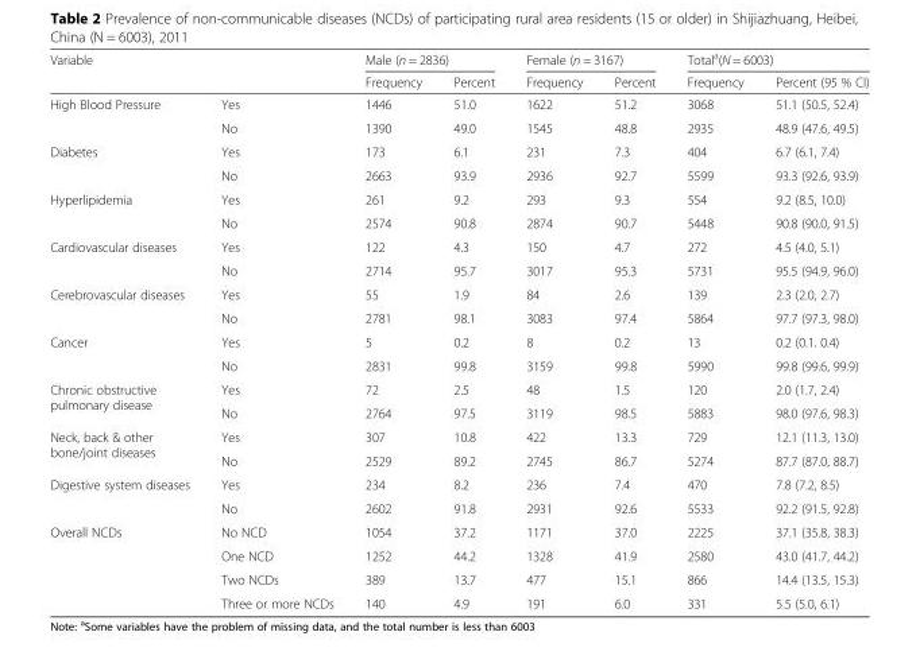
<table><tbody><tr><td rowspan="2" colspan="2">Variable</td><td colspan="2">Male (n = 2836)</td><td colspan="2">Female (n = 3167)</td><td colspan="2">Total<sup>a</sup>(N = 6003)</td></tr><tr><td>Frequency</td><td>Percent</td><td>Frequency</td><td>Percent</td><td>Frequency</td><td>Percent (95 % CI)</td></tr><tr><td rowspan="2">High Blood Pressure</td><td>Yes</td><td>1446</td><td>51.0</td><td>1622</td><td>51.2</td><td>3068</td><td>51.1 (50.5, 52.4)</td></tr><tr><td>No</td><td>1390</td><td>49.0</td><td>1545</td><td>48.8</td><td>2935</td><td>48.9 (47.6, 49.5)</td></tr><tr><td rowspan="2">Diabetes</td><td>Yes</td><td>173</td><td>6.1</td><td>231</td><td>7.3</td><td>404</td><td>6.7 (6.1, 7.4)</td></tr><tr><td>No</td><td>2663</td><td>93.9</td><td>2936</td><td>92.7</td><td>5599</td><td>93.3 (92.6, 93.9)</td></tr><tr><td rowspan="2">Hyperlipidemia</td><td>Yes</td><td>261</td><td>9.2</td><td>293</td><td>9.3</td><td>554</td><td>9.2 (8.5, 10.0)</td></tr><tr><td>No</td><td>2574</td><td>90.8</td><td>2874</td><td>90.7</td><td>5448</td><td>90.8 (90.0, 91.5)</td></tr><tr><td rowspan="2">Cardiovascular diseases</td><td>Yes</td><td>122</td><td>4.3</td><td>150</td><td>4.7</td><td>272</td><td>4.5 (4.0, 5.1)</td></tr><tr><td>No</td><td>2714</td><td>95.7</td><td>3017</td><td>95.3</td><td>5731</td><td>95.5 (94.9, 96.0)</td></tr><tr><td rowspan="2">Cerebrovascular diseases</td><td>Yes</td><td>55</td><td>1.9</td><td>84</td><td>2.6</td><td>139</td><td>2.3 (2.0, 2.7)</td></tr><tr><td>No</td><td>2781</td><td>98.1</td><td>3083</td><td>97.4</td><td>5864</td><td>97.7 (97.3, 98.0)</td></tr><tr><td rowspan="2">Cancer</td><td>Yes</td><td>5</td><td>0.2</td><td>8</td><td>0.2</td><td>13</td><td>0.2 (0.1. 0.4)</td></tr><tr><td>No</td><td>2831</td><td>99.8</td><td>3159</td><td>99.8</td><td>5990</td><td>99.8 (99.6, 99.9)</td></tr><tr><td rowspan="2">Chronic obstructive pulmonary disease</td><td>Yes</td><td>72</td><td>2.5</td><td>48</td><td>1.5</td><td>120</td><td>2.0 (1.7, 2.4)</td></tr><tr><td>No</td><td>2764</td><td>97.5</td><td>3119</td><td>98.5</td><td>5883</td><td>98.0 (97.6, 98.3)</td></tr><tr><td rowspan="2">Neck, back &amp; other bone/joint diseases</td><td>Yes</td><td>307</td><td>10.8</td><td>422</td><td>13.3</td><td>729</td><td>12.1 (11.3, 13.0)</td></tr><tr><td>No</td><td>2529</td><td>89.2</td><td>2745</td><td>86.7</td><td>5274</td><td>87.7 (87.0, 88.7)</td></tr><tr><td rowspan="2">Digestive system diseases</td><td>Yes</td><td>234</td><td>8.2</td><td>236</td><td>7.4</td><td>470</td><td>7.8 (7.2, 8.5)</td></tr><tr><td>No</td><td>2602</td><td>91.8</td><td>2931</td><td>92.6</td><td>5533</td><td>92.2 (91.5, 92.8)</td></tr><tr><td rowspan="4">Overall NCDs</td><td>No NCD</td><td>1054</td><td>37.2</td><td>1171</td><td>37.0</td><td>2225</td><td>37.1 (35.8, 38.3)</td></tr><tr><td>One NCD</td><td>1252</td><td>44.2</td><td>1328</td><td>41.9</td><td>2580</td><td>43.0 (41.7, 44.2)</td></tr><tr><td>Two NCDs</td><td>389</td><td>13.7</td><td>477</td><td>15.1</td><td>866</td><td>14.4 (13.5, 15.3)</td></tr><tr><td>Three or more NCDs</td><td>140</td><td>4.9</td><td>191</td><td>6.0</td><td>331</td><td>5.5 (5.0, 6.1)</td></tr></tbody></table>